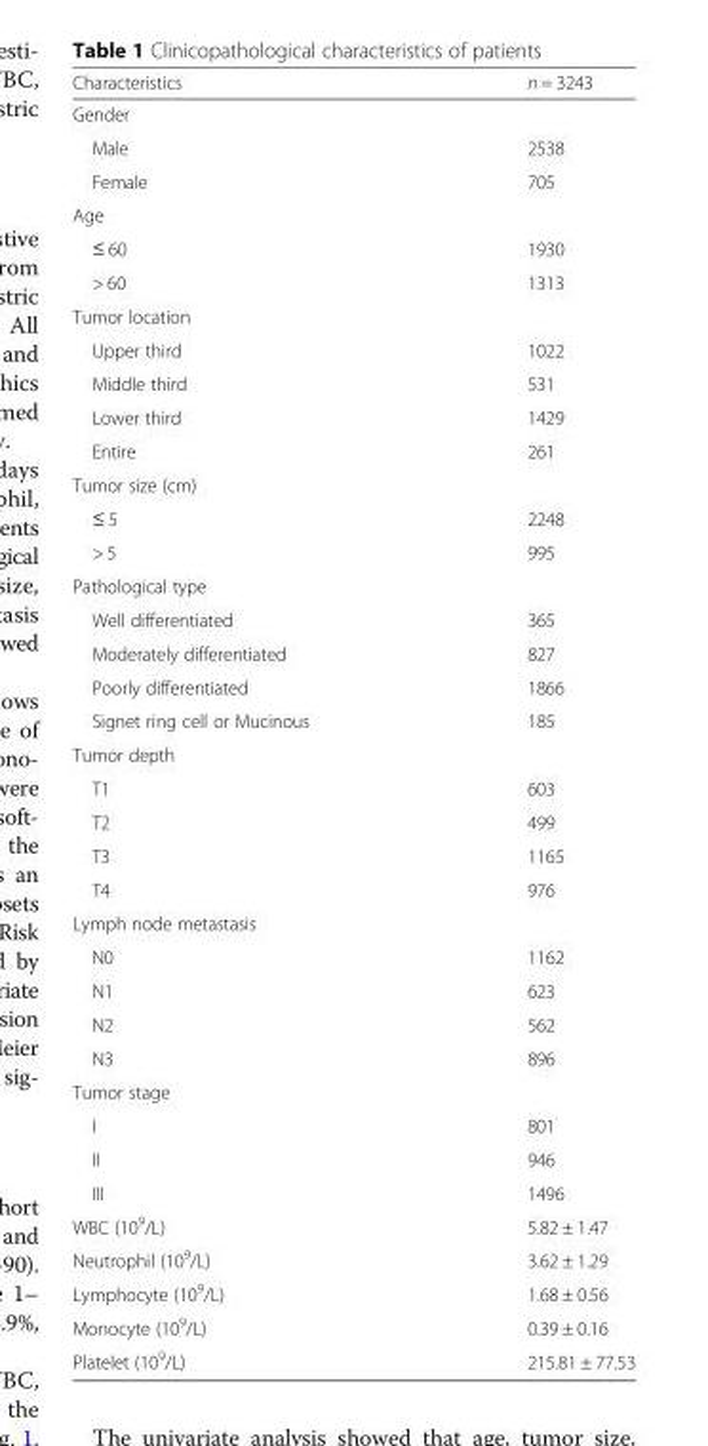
<table><thead><tr><td>Characteristics</td><td>n = 3243</td></tr></thead><tbody><tr><td colspan="2">Gender</td></tr><tr><td>Male</td><td>2538</td></tr><tr><td>Female</td><td>705</td></tr><tr><td colspan="2">Age</td></tr><tr><td>≤ 60</td><td>1930</td></tr><tr><td>&gt; 60</td><td>1313</td></tr><tr><td colspan="2">Tumor location</td></tr><tr><td>Upper third</td><td>1022</td></tr><tr><td>Middle third</td><td>531</td></tr><tr><td>Lower third</td><td>1429</td></tr><tr><td>Entire</td><td>261</td></tr><tr><td colspan="2">Tumor size (cm)</td></tr><tr><td>≤ 5</td><td>2248</td></tr><tr><td>&gt; 5</td><td>995</td></tr><tr><td colspan="2">Pathological type</td></tr><tr><td>Well differentiated</td><td>365</td></tr><tr><td>Moderately differentiated</td><td>827</td></tr><tr><td>Poorly differentiated</td><td>1866</td></tr><tr><td>Signet ring cell or Mucinous</td><td>185</td></tr><tr><td colspan="2">Tumor depth</td></tr><tr><td>T1</td><td>603</td></tr><tr><td>T2</td><td>499</td></tr><tr><td>T3</td><td>1165</td></tr><tr><td>T4</td><td>976</td></tr><tr><td colspan="2">Lymph node metastasis</td></tr><tr><td>N0</td><td>1162</td></tr><tr><td>N1</td><td>623</td></tr><tr><td>N2</td><td>562</td></tr><tr><td>N3</td><td>896</td></tr><tr><td colspan="2">Tumor stage</td></tr><tr><td>I</td><td>801</td></tr><tr><td>II</td><td>946</td></tr><tr><td>III</td><td>1496</td></tr><tr><td>WBC (10<sup>9</sup>/L)</td><td>5.82 ± 1.47</td></tr><tr><td>Neutrophil (10<sup>9</sup>/L)</td><td>3.62 ± 1.29</td></tr><tr><td>Lymphocyte (10<sup>9</sup>/L)</td><td>1.68 ± 0.56</td></tr><tr><td>Monocyte (10<sup>9</sup>/L)</td><td>0.39 ± 0.16</td></tr><tr><td>Platelet (10<sup>9</sup>/L)</td><td>215.81 ± 77.53</td></tr></tbody></table>